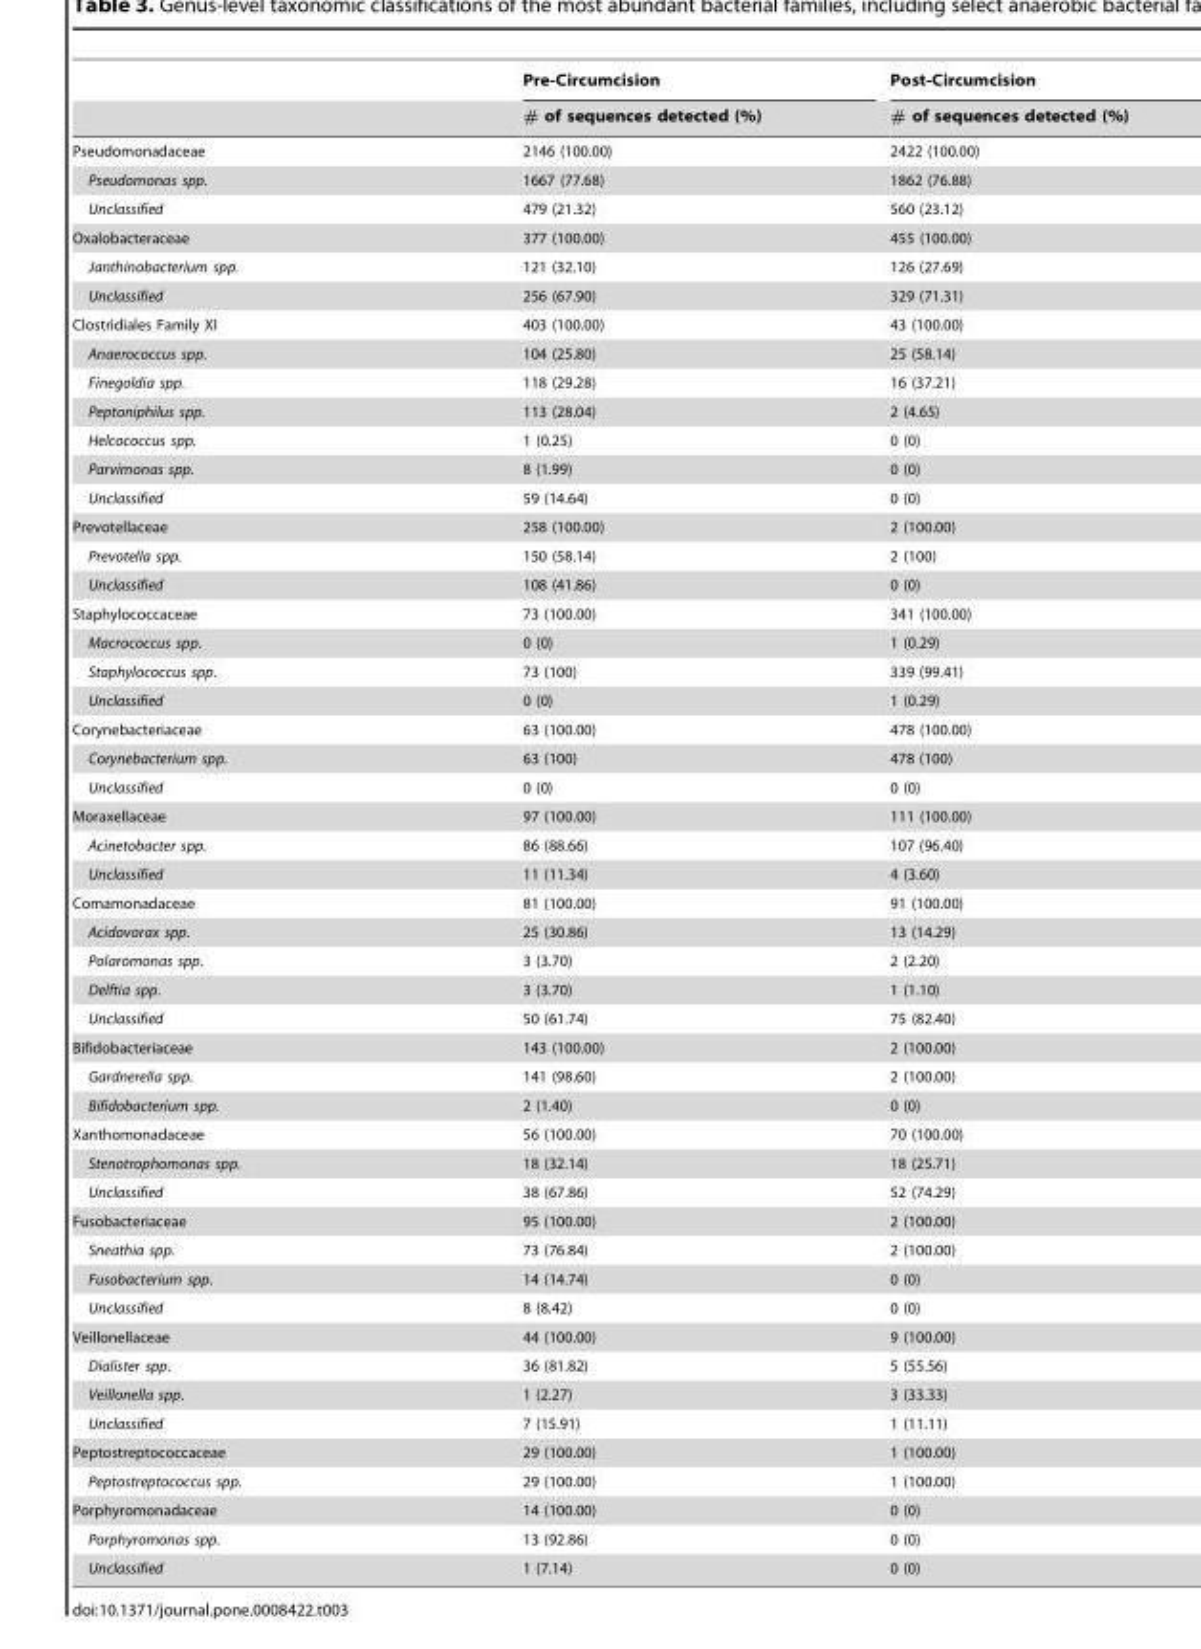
<table><thead><tr><td rowspan="2"></td><td rowspan="2">Pre-Circumcision # of sequences detected (%)</td><td rowspan="2">Post-Circumcision # of sequences detected (%)</td></tr><tr></tr></thead><tbody><tr><td>Pseudomonadaceae</td><td>2146 (100.00)</td><td>2422 (100.00)</td></tr><tr><td>Pseudomonas spp.</td><td>1667 (77.68)</td><td>1862 (76.88)</td></tr><tr><td>Unclassified</td><td>479 (21.32)</td><td>560 (23.12)</td></tr><tr><td>Oxalobacteraceae</td><td>377 (100.00)</td><td>455 (100.00)</td></tr><tr><td>Janthinobacterium spp.</td><td>121 (32.10)</td><td>126 (27.69)</td></tr><tr><td>Unclassified</td><td>256 (67.90)</td><td>329 (71.31)</td></tr><tr><td>Clostridiales Family XI</td><td>403 (100.00)</td><td>43 (100.00)</td></tr><tr><td>Anaerococcus spp.</td><td>104 (25.80)</td><td>25 (58.14)</td></tr><tr><td>Finegoldia spp.</td><td>118 (29.28)</td><td>16 (37.21)</td></tr><tr><td>Peptoniphilus spp.</td><td>113 (28.04)</td><td>2 (4.65)</td></tr><tr><td>Helcococcus spp.</td><td>1 (0.25)</td><td>0 (0)</td></tr><tr><td>Parvimonas spp.</td><td>8 (1.99)</td><td>0 (0)</td></tr><tr><td>Unclassified</td><td>59 (14.64)</td><td>0 (0)</td></tr><tr><td>Prevotellaceae</td><td>258 (100.00)</td><td>2 (100.00)</td></tr><tr><td>Prevotella spp.</td><td>150 (58.14)</td><td>2 (100)</td></tr><tr><td>Unclassified</td><td>108 (41.86)</td><td>0 (0)</td></tr><tr><td>Staphylococcaceae</td><td>73 (100.00)</td><td>341 (100.00)</td></tr><tr><td>Macrococcus spp.</td><td>0 (0)</td><td>1 (0.29)</td></tr><tr><td>Staphylococcus spp.</td><td>73 (100)</td><td>339 (99.41)</td></tr><tr><td>Unclassified</td><td>0 (0)</td><td>1 (0.29)</td></tr><tr><td>Corynebacteriaceae</td><td>63 (100.00)</td><td>478 (100.00)</td></tr><tr><td>Corynebacterium spp.</td><td>63 (100)</td><td>478 (100)</td></tr><tr><td>Unclassified</td><td>0 (0)</td><td>0 (0)</td></tr><tr><td>Moraxellaceae</td><td>97 (100.00)</td><td>111 (100.00)</td></tr><tr><td>Acinetobacter spp.</td><td>86 (88.66)</td><td>107 (96.40)</td></tr><tr><td>Unclassified</td><td>11 (11.34)</td><td>4 (3.60)</td></tr><tr><td>Comamonadaceae</td><td>81 (100.00)</td><td>91 (100.00)</td></tr><tr><td>Acidovorax spp.</td><td>25 (30.86)</td><td>13 (14.29)</td></tr><tr><td>Polaromonas spp.</td><td>3 (3.70)</td><td>2 (2.20)</td></tr><tr><td>Delftia spp.</td><td>3 (3.70)</td><td>1 (1.10)</td></tr><tr><td>Unclassified</td><td>50 (61.74)</td><td>75 (82.40)</td></tr><tr><td>Bifidobacteriaceae</td><td>143 (100.00)</td><td>2 (100.00)</td></tr><tr><td>Gardnerella spp.</td><td>141 (98.60)</td><td>2 (100.00)</td></tr><tr><td>Bifidobacterium spp.</td><td>2 (1.40)</td><td>0 (0)</td></tr><tr><td>Xanthomonadaceae</td><td>56 (100.00)</td><td>70 (100.00)</td></tr><tr><td>Stenotrophomonas spp.</td><td>18 (32.14)</td><td>18 (25.71)</td></tr><tr><td>Unclassified</td><td>38 (67.86)</td><td>52 (74.29)</td></tr><tr><td>Fusobacteriaceae</td><td>95 (100.00)</td><td>2 (100.00)</td></tr><tr><td>Sneathia spp.</td><td>73 (76.84)</td><td>2 (100.00)</td></tr><tr><td>Fusobacterium spp.</td><td>14 (14.74)</td><td>0 (0)</td></tr><tr><td>Unclassified</td><td>8 (8.42)</td><td>0 (0)</td></tr><tr><td>Veillonellaceae</td><td>44 (100.00)</td><td>9 (100.00)</td></tr><tr><td>Dialister spp.</td><td>36 (81.82)</td><td>5 (55.56)</td></tr><tr><td>Veillonella spp.</td><td>1 (2.27)</td><td>3 (33.33)</td></tr><tr><td>Unclassified</td><td>7 (15.91)</td><td>1 (11.11)</td></tr><tr><td>Peptostreptococcaceae</td><td>29 (100.00)</td><td>1 (100.00)</td></tr><tr><td>Peptostreptococcus spp.</td><td>29 (100.00)</td><td>1 (100.00)</td></tr><tr><td>Porphyromonadaceae</td><td>14 (100.00)</td><td>0 (0)</td></tr><tr><td>Porphyromonas spp.</td><td>13 (92.86)</td><td>0 (0)</td></tr><tr><td>Unclassified</td><td>1 (7.14)</td><td>0 (0)</td></tr></tbody></table>